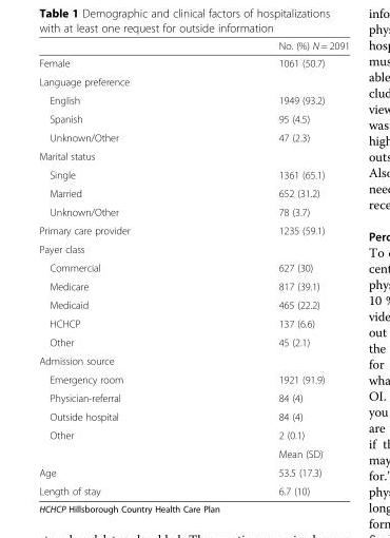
<table><thead><tr><td></td><td>No. (%) N = 2091</td></tr></thead><tbody><tr><td>Female</td><td>1061 (50.7)</td></tr><tr><td colspan="2">Language preference</td></tr><tr><td>English</td><td>1949 (93.2)</td></tr><tr><td>Spanish</td><td>95 (4.5)</td></tr><tr><td>Unknown/Other</td><td>47 (2.3)</td></tr><tr><td colspan="2">Marital status</td></tr><tr><td>Single</td><td>1361 (65.1)</td></tr><tr><td>Married</td><td>652 (31.2)</td></tr><tr><td>Unknown/Other</td><td>78 (3.7)</td></tr><tr><td>Primary care provider</td><td>1235 (59.1)</td></tr><tr><td colspan="2">Payer class</td></tr><tr><td>Commercial</td><td>627 (30)</td></tr><tr><td>Medicare</td><td>817 (39.1)</td></tr><tr><td>Medicaid</td><td>465 (22.2)</td></tr><tr><td>HCHCP</td><td>137 (6.6)</td></tr><tr><td>Other</td><td>45 (2.1)</td></tr><tr><td colspan="2">Admission source</td></tr><tr><td>Emergency room</td><td>1921 (91.9)</td></tr><tr><td>Physician-referral</td><td>84 (4)</td></tr><tr><td>Outside hospital</td><td>84 (4)</td></tr><tr><td rowspan="2">Other</td><td>2 (0.1)</td></tr><tr><td>Mean (SD)</td></tr><tr><td>Age</td><td>53.5 (17.3)</td></tr><tr><td>Length of stay</td><td>6.7 (10)</td></tr></tbody></table>